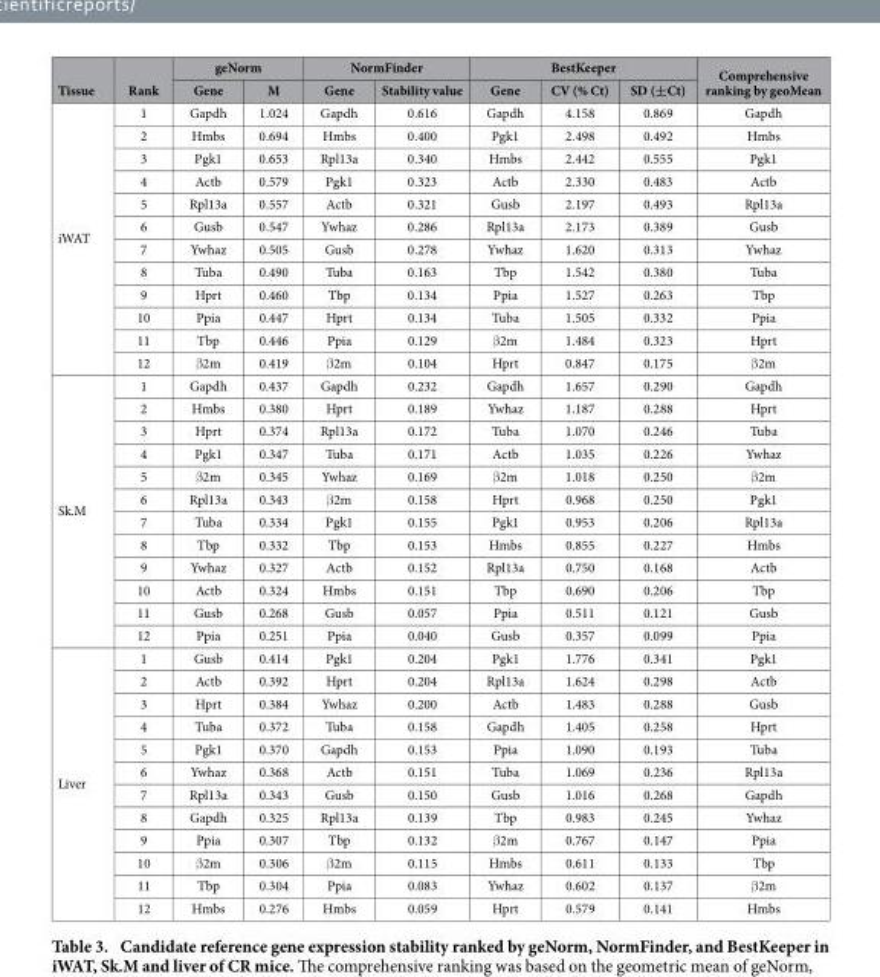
<table><thead><tr><td rowspan="2">Tissue</td><td rowspan="2">Rank</td><td colspan="2">geNorm</td><td colspan="2">NormFinder</td><td colspan="3">BestKeeper</td><td rowspan="2">Comprehensive ranking by geoMean</td></tr><tr><td>Gene</td><td>M</td><td>Gene</td><td>Stability value</td><td>Gene</td><td>CV (% Ct)</td><td>SD (±Ct)</td></tr></thead><tbody><tr><td rowspan="12">iWAT</td><td>1</td><td>Gapdh</td><td>1.024</td><td>Gapdh</td><td>0.616</td><td>Gapdh</td><td>4.158</td><td>0.869</td><td>Gapdh</td></tr><tr><td>2</td><td>Hmbs</td><td>0.694</td><td>Hmbs</td><td>0.400</td><td>Pgk1</td><td>2.498</td><td>0.492</td><td>Hmbs</td></tr><tr><td>3</td><td>Pgk1</td><td>0.653</td><td>Rpl13a</td><td>0.340</td><td>Hmbs</td><td>2.442</td><td>0.555</td><td>Pgk1</td></tr><tr><td>4</td><td>Actb</td><td>0.579</td><td>Pgk1</td><td>0.323</td><td>Actb</td><td>2.330</td><td>0.483</td><td>Actb</td></tr><tr><td>5</td><td>Rpl13a</td><td>0.557</td><td>Actb</td><td>0.321</td><td>Gusb</td><td>2.197</td><td>0.493</td><td>Rpl13a</td></tr><tr><td>6</td><td>Gusb</td><td>0.547</td><td>Ywhaz</td><td>0.286</td><td>Rpl13a</td><td>2.173</td><td>0.389</td><td>Gusb</td></tr><tr><td>7</td><td>Ywhaz</td><td>0.505</td><td>Gusb</td><td>0.278</td><td>Ywhaz</td><td>1.620</td><td>0.313</td><td>Ywhaz</td></tr><tr><td>8</td><td>Tuba</td><td>0.490</td><td>Tuba</td><td>0.163</td><td>Tbp</td><td>1.542</td><td>0.380</td><td>Tuba</td></tr><tr><td>9</td><td>Hprt</td><td>0.460</td><td>Tbp</td><td>0.134</td><td>Ppia</td><td>1.527</td><td>0.263</td><td>Tbp</td></tr><tr><td>10</td><td>Ppia</td><td>0.447</td><td>Hprt</td><td>0.134</td><td>Tuba</td><td>1.505</td><td>0.332</td><td>Ppia</td></tr><tr><td>11</td><td>Tbp</td><td>0.446</td><td>Ppia</td><td>0.129</td><td>β 2m</td><td>1.484</td><td>0.323</td><td>Hprt</td></tr><tr><td>12</td><td>β 2m</td><td>0.419</td><td>β 2m</td><td>0.104</td><td>Hprt</td><td>0.847</td><td>0.175</td><td>β 2m</td></tr><tr><td rowspan="12">Sk.M</td><td>1</td><td>Gapdh</td><td>0.437</td><td>Gapdh</td><td>0.232</td><td>Gapdh</td><td>1.657</td><td>0.290</td><td>Gapdh</td></tr><tr><td>2</td><td>Hmbs</td><td>0.380</td><td>Hprt</td><td>0.189</td><td>Ywhaz</td><td>1.187</td><td>0.288</td><td>Hprt</td></tr><tr><td>3</td><td>Hprt</td><td>0.374</td><td>Rpl13a</td><td>0.172</td><td>Tuba</td><td>1.070</td><td>0.246</td><td>Tuba</td></tr><tr><td>4</td><td>Pgk1</td><td>0.347</td><td>Tuba</td><td>0.171</td><td>Actb</td><td>1.035</td><td>0.226</td><td>Ywhaz</td></tr><tr><td>5</td><td>β 2m</td><td>0.345</td><td>Ywhaz</td><td>0.169</td><td>β 2m</td><td>1.018</td><td>0.250</td><td>β 2m</td></tr><tr><td>6</td><td>Rpl13a</td><td>0.343</td><td>β 2m</td><td>0.158</td><td>Hprt</td><td>0.968</td><td>0.250</td><td>Pgk1</td></tr><tr><td>7</td><td>Tuba</td><td>0.334</td><td>Pgk1</td><td>0.155</td><td>Pgk1</td><td>0.953</td><td>0.206</td><td>Rpl13a</td></tr><tr><td>8</td><td>Tbp</td><td>0.332</td><td>Tbp</td><td>0.153</td><td>Hmbs</td><td>0.855</td><td>0.227</td><td>Hmbs</td></tr><tr><td>9</td><td>Ywhaz</td><td>0.327</td><td>Actb</td><td>0.152</td><td>Rpl13a</td><td>0.750</td><td>0.168</td><td>Actb</td></tr><tr><td>10</td><td>Actb</td><td>0.324</td><td>Hmbs</td><td>0.151</td><td>Tbp</td><td>0.690</td><td>0.206</td><td>Tbp</td></tr><tr><td>11</td><td>Gusb</td><td>0.268</td><td>Gusb</td><td>0.057</td><td>Ppia</td><td>0.511</td><td>0.121</td><td>Gusb</td></tr><tr><td>12</td><td>Ppia</td><td>0.251</td><td>Ppia</td><td>0.040</td><td>Gusb</td><td>0.357</td><td>0.099</td><td>Ppia</td></tr><tr><td rowspan="12">Liver</td><td>1</td><td>Gusb</td><td>0.414</td><td>Pgk1</td><td>0.204</td><td>Pgk1</td><td>1.776</td><td>0.341</td><td>Pgk1</td></tr><tr><td>2</td><td>Actb</td><td>0.392</td><td>Hprt</td><td>0.204</td><td>Rpl13a</td><td>1.624</td><td>0.298</td><td>Actb</td></tr><tr><td>3</td><td>Hprt</td><td>0.384</td><td>Ywhaz</td><td>0.200</td><td>Actb</td><td>1.483</td><td>0.288</td><td>Gusb</td></tr><tr><td>4</td><td>Tuba</td><td>0.372</td><td>Tuba</td><td>0.158</td><td>Gapdh</td><td>1.405</td><td>0.258</td><td>Hprt</td></tr><tr><td>5</td><td>Pgk1</td><td>0.370</td><td>Gapdh</td><td>0.153</td><td>Ppia</td><td>1.090</td><td>0.193</td><td>Tuba</td></tr><tr><td>6</td><td>Ywhaz</td><td>0.368</td><td>Actb</td><td>0.151</td><td>Tuba</td><td>1.069</td><td>0.236</td><td>Rpl13a</td></tr><tr><td>7</td><td>Rpl13a</td><td>0.343</td><td>Gusb</td><td>0.150</td><td>Gusb</td><td>1.016</td><td>0.268</td><td>Gapdh</td></tr><tr><td>8</td><td>Gapdh</td><td>0.325</td><td>Rpl13a</td><td>0.139</td><td>Tbp</td><td>0.983</td><td>0.245</td><td>Ywhaz</td></tr><tr><td>9</td><td>Ppia</td><td>0.307</td><td>Tbp</td><td>0.132</td><td>β 2m</td><td>0.767</td><td>0.147</td><td>Ppia</td></tr><tr><td>10</td><td>β 2m</td><td>0.306</td><td>β 2m</td><td>0.115</td><td>Hmbs</td><td>0.611</td><td>0.133</td><td>Tbp</td></tr><tr><td>11</td><td>Tbp</td><td>0.304</td><td>Ppia</td><td>0.083</td><td>Ywhaz</td><td>0.602</td><td>0.137</td><td>β 2m</td></tr><tr><td>12</td><td>Hmbs</td><td>0.276</td><td>Hmbs</td><td>0.059</td><td>Hprt</td><td>0.579</td><td>0.141</td><td>Hmbs</td></tr></tbody></table>